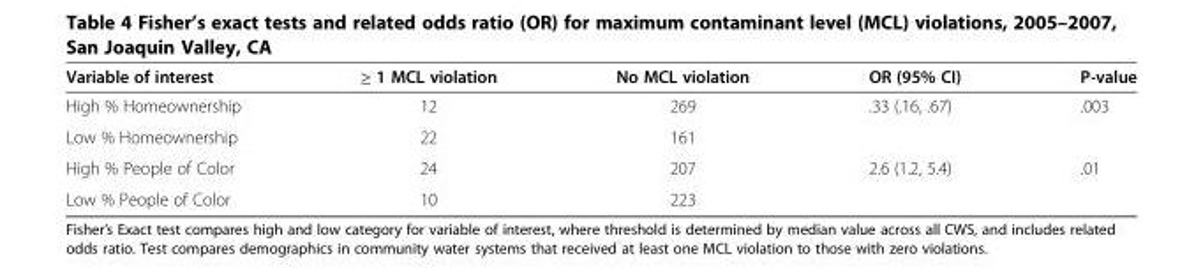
<table><thead><tr><td>Variable of interest</td><td>≥ 1 MCL violation</td><td>No MCL violation</td><td>OR (95% CI)</td><td>P-value</td></tr></thead><tbody><tr><td>High % Homeownership</td><td>12</td><td>269</td><td>.33 (.16, .67)</td><td>.003</td></tr><tr><td>Low % Homeownership</td><td>22</td><td>161</td><td></td><td></td></tr><tr><td>High % People of Color</td><td>24</td><td>207</td><td>2.6 (1.2, 5.4)</td><td>.01</td></tr><tr><td>Low % People of Color</td><td>10</td><td>223</td><td></td><td></td></tr></tbody></table>